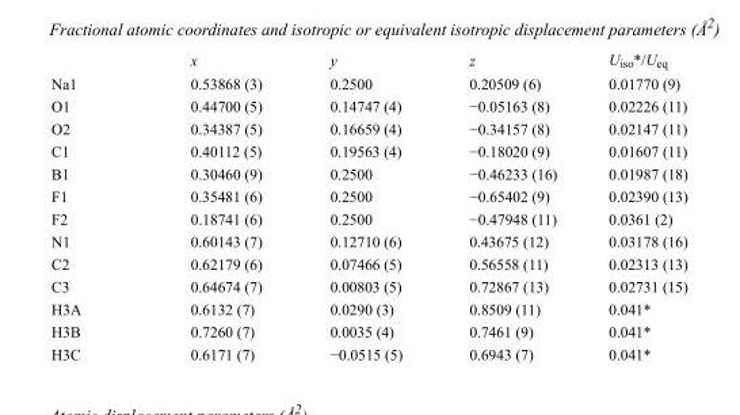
<table><thead><tr><td></td><td>x</td><td>y</td><td>z</td><td>U<sub>iso</sub>*/U<sub>eq</sub></td></tr></thead><tbody><tr><td>Na1</td><td>0.53868 (3)</td><td>0.2500</td><td>0.20509 (6)</td><td>0.01770 (9)</td></tr><tr><td>O1</td><td>0.44700 (5)</td><td>0.14747 (4)</td><td>−0.05163 (8)</td><td>0.02226 (11)</td></tr><tr><td>O2</td><td>0.34387 (5)</td><td>0.16659 (4)</td><td>−0.34157 (8)</td><td>0.02147 (11)</td></tr><tr><td>C1</td><td>0.40112 (5)</td><td>0.19563 (4)</td><td>−0.18020 (9)</td><td>0.01607 (11)</td></tr><tr><td>B1</td><td>0.30460 (9)</td><td>0.2500</td><td>−0.46233 (16)</td><td>0.01987 (18)</td></tr><tr><td>F1</td><td>0.35481 (6)</td><td>0.2500</td><td>−0.65402 (9)</td><td>0.02390 (13)</td></tr><tr><td>F2</td><td>0.18741 (6)</td><td>0.2500</td><td>−0.47948 (11)</td><td>0.0361 (2)</td></tr><tr><td>N1</td><td>0.60143 (7)</td><td>0.12710 (6)</td><td>0.43675 (12)</td><td>0.03178 (16)</td></tr><tr><td>C2</td><td>0.62179 (6)</td><td>0.07466 (5)</td><td>0.56558 (11)</td><td>0.02313 (13)</td></tr><tr><td>C3</td><td>0.64674 (7)</td><td>0.00803 (5)</td><td>0.72867 (13)</td><td>0.02731 (15)</td></tr><tr><td>H3A</td><td>0.6132 (7)</td><td>0.0290 (3)</td><td>0.8509 (11)</td><td>0.041*</td></tr><tr><td>H3B</td><td>0.7260 (7)</td><td>0.0035 (4)</td><td>0.7461 (9)</td><td>0.041*</td></tr><tr><td>H3C</td><td>0.6171 (7)</td><td>−0.0515 (5)</td><td>0.6943 (7)</td><td>0.041*</td></tr></tbody></table>